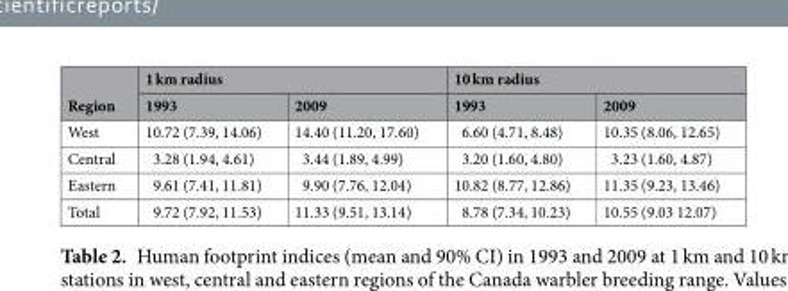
<table><thead><tr><td rowspan="2">Region</td><td colspan="2">1 km radius</td><td colspan="2">10 km radius</td></tr><tr><td>1993</td><td>2009</td><td>1993</td><td>2009</td></tr></thead><tbody><tr><td>West</td><td>10.72 (7.39, 14.06)</td><td>14.40 (11.20, 17.60)</td><td>6.60 (4.71, 8.48)</td><td>10.35 (8.06, 12.65)</td></tr><tr><td>Central</td><td>3.28 (1.94, 4.61)</td><td>3.44 (1.89, 4.99)</td><td>3.20 (1.60, 4.80)</td><td>3.23 (1.60, 4.87)</td></tr><tr><td>Eastern</td><td>9.61 (7.41, 11.81)</td><td>9.90 (7.76, 12.04)</td><td>10.82 (8.77, 12.86)</td><td>11.35 (9.23, 13.46)</td></tr><tr><td>Total</td><td>9.72 (7.92, 11.53)</td><td>11.33 (9.51, 13.14)</td><td>8.78 (7.34, 10.23)</td><td>10.55 (9.03 12.07)</td></tr></tbody></table>